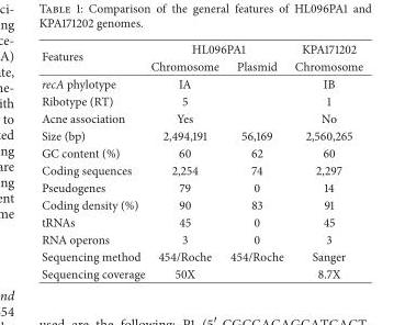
<table><thead><tr><td rowspan="2">Features</td><td colspan="2">HL096PA1</td><td rowspan="2">KPA171202 Chromosome</td></tr><tr><td>Chromosome</td><td>Plasmid</td></tr></thead><tbody><tr><td>recA phylotype</td><td>IA</td><td></td><td>IB</td></tr><tr><td>Ribotype (RT)</td><td>5</td><td></td><td>1</td></tr><tr><td>Acne association</td><td>Yes</td><td></td><td>No</td></tr><tr><td>Size (bp)</td><td>2,494,191</td><td>56,169</td><td>2,560,265</td></tr><tr><td>GC content (%)</td><td>60</td><td>62</td><td>60</td></tr><tr><td>Coding sequences</td><td>2,254</td><td>74</td><td>2,297</td></tr><tr><td>Pseudogenes</td><td>79</td><td>0</td><td>14</td></tr><tr><td>Coding density (%)</td><td>90</td><td>83</td><td>91</td></tr><tr><td>tRNAs</td><td>45</td><td>0</td><td>45</td></tr><tr><td>RNA operons</td><td>3</td><td>0</td><td>3</td></tr><tr><td>Sequencing method</td><td>454/Roche</td><td>454/Roche</td><td>Sanger</td></tr><tr><td>Sequencing coverage</td><td>50X</td><td></td><td>8.7X</td></tr></tbody></table>